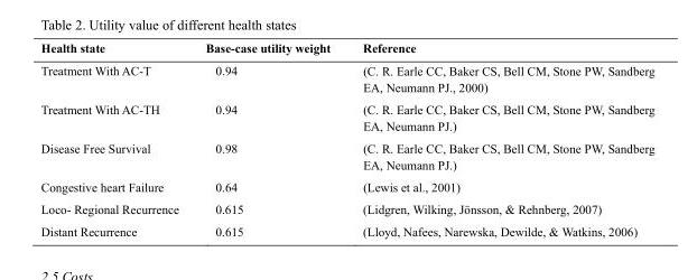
<table><thead><tr><td>Health state</td><td>Base-case utility weight</td><td>Reference</td></tr></thead><tbody><tr><td>Treatment With AC-T</td><td>0.94</td><td>(C. R. Earle CC, Baker CS, Bell CM, Stone PW, Sandberg EA, Neumann PJ., 2000)</td></tr><tr><td>Treatment With AC-TH</td><td>0.94</td><td>(C. R. Earle CC, Baker CS, Bell CM, Stone PW, Sandberg EA, Neumann PJ.)</td></tr><tr><td>Disease Free Survival</td><td>0.98</td><td>(C. R. Earle CC, Baker CS, Bell CM, Stone PW, Sandberg EA, Neumann PJ.)</td></tr><tr><td>Congestive heart Failure</td><td>0.64</td><td>(Lewis et al., 2001)</td></tr><tr><td>Loco- Regional Recurrence</td><td>0.615</td><td>(Lidgren, Wilking, Jönsson, &amp; Rehnberg, 2007)</td></tr><tr><td>Distant Recurrence</td><td>0.615</td><td>(Lloyd, Nafees, Narewska, Dewilde, &amp; Watkins, 2006)</td></tr></tbody></table>